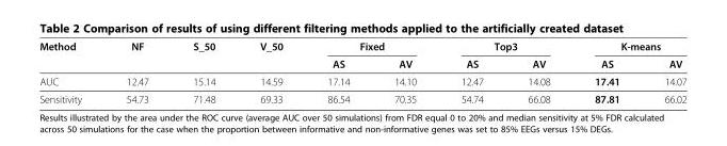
<table><thead><tr><td rowspan="2">Method</td><td rowspan="2">NF</td><td rowspan="2">S_50</td><td rowspan="2">V_50</td><td colspan="2">Fixed</td><td colspan="2">Top3</td><td colspan="2">K-means</td></tr><tr><td>AS</td><td>AV</td><td>AS</td><td>AV</td><td>AS</td><td>AV</td></tr></thead><tbody><tr><td>AUC</td><td>12.47</td><td>15.14</td><td>14.59</td><td>17.14</td><td>14.10</td><td>12.47</td><td>14.08</td><td>17.41</td><td>14.07</td></tr><tr><td>Sensitivity</td><td>54.73</td><td>71.48</td><td>69.33</td><td>86.54</td><td>70.35</td><td>54.74</td><td>66.08</td><td>87.81</td><td>66.02</td></tr></tbody></table>